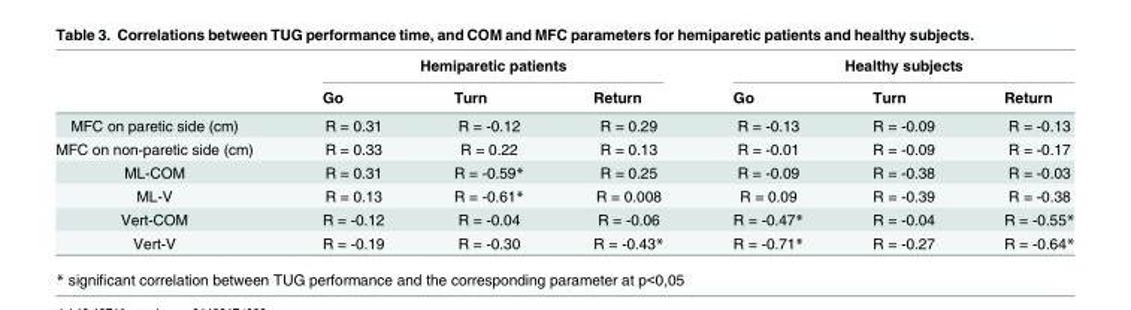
<table><thead><tr><td rowspan="2"></td><td colspan="3">Hemiparetic patients</td><td colspan="3">Healthy subjects</td></tr><tr><td>Go</td><td>Turn</td><td>Return</td><td>Go</td><td>Turn</td><td>Return</td></tr></thead><tbody><tr><td>MFC on paretic side (cm)</td><td>R = 0.31</td><td>R = -0.12</td><td>R = 0.29</td><td>R = -0.13</td><td>R = -0.09</td><td>R = -0.13</td></tr><tr><td>MFC on non-paretic side (cm)</td><td>R = 0.33</td><td>R = 0.22</td><td>R = 0.13</td><td>R = -0.01</td><td>R = -0.09</td><td>R = -0.17</td></tr><tr><td>ML-COM</td><td>R = 0.31</td><td>R = -0.59*</td><td>R = 0.25</td><td>R = -0.09</td><td>R = -0.38</td><td>R = -0.03</td></tr><tr><td>ML-V</td><td>R = 0.13</td><td>R = -0.61*</td><td>R = 0.008</td><td>R = 0.09</td><td>R = -0.39</td><td>R = -0.38</td></tr><tr><td>Vert-COM</td><td>R = -0.12</td><td>R = -0.04</td><td>R = -0.06</td><td>R = -0.47*</td><td>R = -0.04</td><td>R = -0.55*</td></tr><tr><td>Vert-V</td><td>R = -0.19</td><td>R = -0.30</td><td>R = -0.43*</td><td>R = -0.71*</td><td>R = -0.27</td><td>R = -0.64*</td></tr></tbody></table>